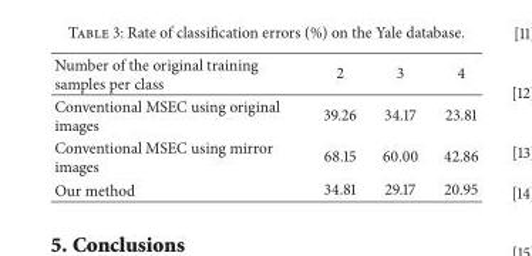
<table><thead><tr><td>Number of the original training samples per class</td><td>2</td><td>3</td><td>4</td></tr></thead><tbody><tr><td>Conventional MSEC using original images</td><td>39.26</td><td>34.17</td><td>23.81</td></tr><tr><td>Conventional MSEC using mirror images</td><td>68.15</td><td>60.00</td><td>42.86</td></tr><tr><td>Our method</td><td>34.81</td><td>29.17</td><td>20.95</td></tr></tbody></table>